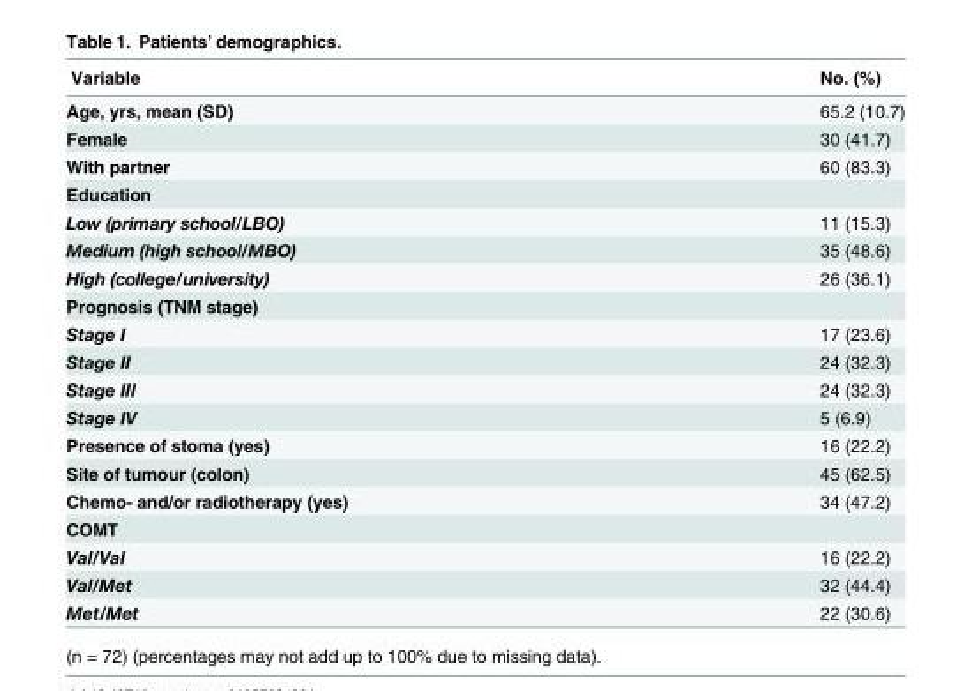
<table><thead><tr><td>Variable</td><td>No. (%)</td></tr></thead><tbody><tr><td>Age, yrs, mean (SD)</td><td>65.2 (10.7)</td></tr><tr><td>Female</td><td>30 (41.7)</td></tr><tr><td>With partner</td><td>60 (83.3)</td></tr><tr><td colspan="2">Education</td></tr><tr><td>Low (primary school/LBO)</td><td>11 (15.3)</td></tr><tr><td>Medium (high school/MBO)</td><td>35 (48.6)</td></tr><tr><td>High (college/university)</td><td>26 (36.1)</td></tr><tr><td colspan="2">Prognosis (TNM stage)</td></tr><tr><td>Stage I</td><td>17 (23.6)</td></tr><tr><td>Stage II</td><td>24 (32.3)</td></tr><tr><td>Stage III</td><td>24 (32.3)</td></tr><tr><td>Stage IV</td><td>5 (6.9)</td></tr><tr><td>Presence of stoma (yes)</td><td>16 (22.2)</td></tr><tr><td>Site of tumour (colon)</td><td>45 (62.5)</td></tr><tr><td>Chemo- and/or radiotherapy (yes)</td><td>34 (47.2)</td></tr><tr><td colspan="2">COMT</td></tr><tr><td>Val/Val</td><td>16 (22.2)</td></tr><tr><td>Val/Met</td><td>32 (44.4)</td></tr><tr><td>Met/Met</td><td>22 (30.6)</td></tr></tbody></table>